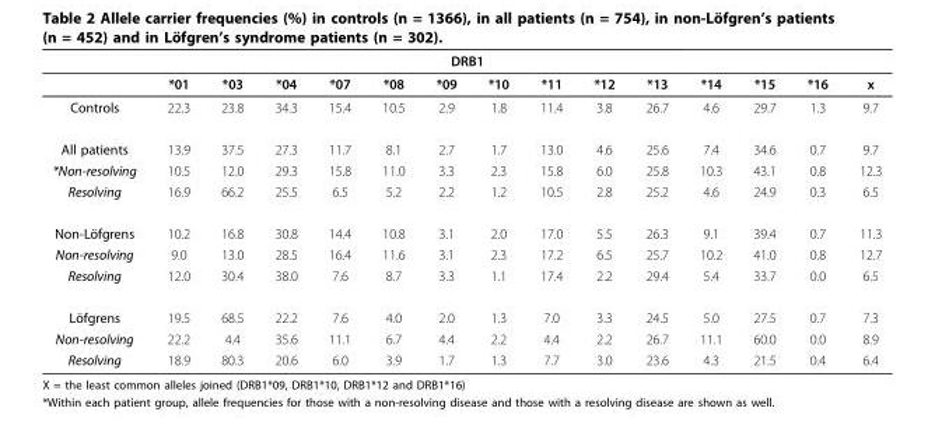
<table><thead><tr><td colspan="15">DRB1</td></tr><tr><td></td><td>*01</td><td>*03</td><td>*04</td><td>*07</td><td>*08</td><td>*09</td><td>*10</td><td>*11</td><td>*12</td><td>*13</td><td>*14</td><td>*15</td><td>*16</td><td>x</td></tr></thead><tbody><tr><td>Controls</td><td>22.3</td><td>23.8</td><td>34.3</td><td>15.4</td><td>10.5</td><td>2.9</td><td>1.8</td><td>11.4</td><td>3.8</td><td>26.7</td><td>4.6</td><td>29.7</td><td>1.3</td><td>9.7</td></tr><tr><td>All patients</td><td>13.9</td><td>37.5</td><td>27.3</td><td>11.7</td><td>8.1</td><td>2.7</td><td>1.7</td><td>13.0</td><td>4.6</td><td>25.6</td><td>7.4</td><td>34.6</td><td>0.7</td><td>9.7</td></tr><tr><td>*Non-resolving</td><td>10.5</td><td>12.0</td><td>29.3</td><td>15.8</td><td>11.0</td><td>3.3</td><td>2.3</td><td>15.8</td><td>6.0</td><td>25.8</td><td>10.3</td><td>43.1</td><td>0.8</td><td>12.3</td></tr><tr><td>Resolving</td><td>16.9</td><td>66.2</td><td>25.5</td><td>6.5</td><td>5.2</td><td>2.2</td><td>1.2</td><td>10.5</td><td>2.8</td><td>25.2</td><td>4.6</td><td>24.9</td><td>0.3</td><td>6.5</td></tr><tr><td>Non-Löfgrens</td><td>10.2</td><td>16.8</td><td>30.8</td><td>14.4</td><td>10.8</td><td>3.1</td><td>2.0</td><td>17.0</td><td>5.5</td><td>26.3</td><td>9.1</td><td>39.4</td><td>0.7</td><td>11.3</td></tr><tr><td>Non-resolving</td><td>9.0</td><td>13.0</td><td>28.5</td><td>16.4</td><td>11.6</td><td>3.1</td><td>2.3</td><td>17.2</td><td>6.5</td><td>25.7</td><td>10.2</td><td>41.0</td><td>0.8</td><td>12.7</td></tr><tr><td>Resolving</td><td>12.0</td><td>30.4</td><td>38.0</td><td>7.6</td><td>8.7</td><td>3.3</td><td>1.1</td><td>17.4</td><td>2.2</td><td>29.4</td><td>5.4</td><td>33.7</td><td>0.0</td><td>6.5</td></tr><tr><td>Löfgrens</td><td>19.5</td><td>68.5</td><td>22.2</td><td>7.6</td><td>4.0</td><td>2.0</td><td>1.3</td><td>7.0</td><td>3.3</td><td>24.5</td><td>5.0</td><td>27.5</td><td>0.7</td><td>7.3</td></tr><tr><td>Non-resolving</td><td>22.2</td><td>4.4</td><td>35.6</td><td>11.1</td><td>6.7</td><td>4.4</td><td>2.2</td><td>4.4</td><td>2.2</td><td>26.7</td><td>11.1</td><td>60.0</td><td>0.0</td><td>8.9</td></tr><tr><td>Resolving</td><td>18.9</td><td>80.3</td><td>20.6</td><td>6.0</td><td>3.9</td><td>1.7</td><td>1.3</td><td>7.7</td><td>3.0</td><td>23.6</td><td>4.3</td><td>21.5</td><td>0.4</td><td>6.4</td></tr></tbody></table>